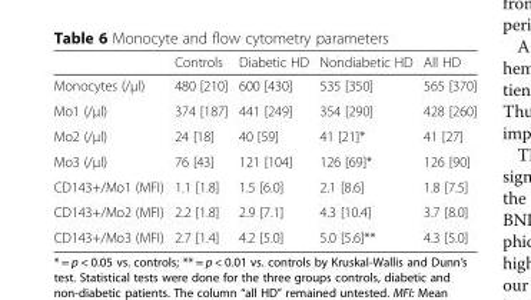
<table><thead><tr><td></td><td>Controls</td><td>Diabetic HD</td><td>Nondiabetic HD</td><td>All HD</td></tr></thead><tbody><tr><td>Monocytes (/μl)</td><td>480 [210]</td><td>600 [430]</td><td>535 [350]</td><td>565 [370]</td></tr><tr><td>Mo1 (/μl)</td><td>374 [187]</td><td>441 [249]</td><td>354 [290]</td><td>428 [260]</td></tr><tr><td>Mo2 (/μl)</td><td>24 [18]</td><td>40 [59]</td><td>41 [21]*</td><td>41 [27]</td></tr><tr><td>Mo3 (/μl)</td><td>76 [43]</td><td>121 [104]</td><td>126 [69]*</td><td>126 [90]</td></tr><tr><td>CD143+/Mo1 (MFI)</td><td>1.1 [1.8]</td><td>1.5 [6.0]</td><td>2.1 [8.6]</td><td>1.8 [7.5]</td></tr><tr><td>CD143+/Mo2 (MFI)</td><td>2.2 [1.8]</td><td>2.9 [7.1]</td><td>4.3 [10.4]</td><td>3.7 [8.0]</td></tr><tr><td>CD143+/Mo3 (MFI)</td><td>2.7 [1.4]</td><td>4.2 [5.0]</td><td>5.0 [5.6]**</td><td>4.3 [5.0]</td></tr></tbody></table>